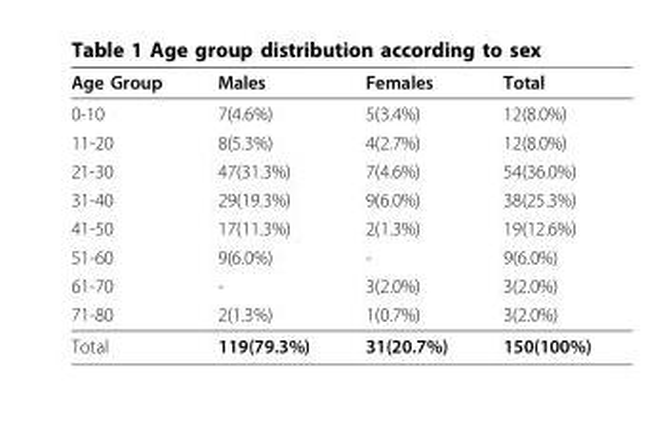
<table><thead><tr><td>Age Group</td><td>Males</td><td>Females</td><td>Total</td></tr></thead><tbody><tr><td>0-10</td><td>7(4.6%)</td><td>5(3.4%)</td><td>12(8.0%)</td></tr><tr><td>11-20</td><td>8(5.3%)</td><td>4(2.7%)</td><td>12(8.0%)</td></tr><tr><td>21-30</td><td>47(31.3%)</td><td>7(4.6%)</td><td>54(36.0%)</td></tr><tr><td>31-40</td><td>29(19.3%)</td><td>9(6.0%)</td><td>38(25.3%)</td></tr><tr><td>41-50</td><td>17(11.3%)</td><td>2(1.3%)</td><td>19(12.6%)</td></tr><tr><td>51-60</td><td>9(6.0%)</td><td>-</td><td>9(6.0%)</td></tr><tr><td>61-70</td><td>-</td><td>3(2.0%)</td><td>3(2.0%)</td></tr><tr><td>71-80</td><td>2(1.3%)</td><td>1(0.7%)</td><td>3(2.0%)</td></tr><tr><td>Total</td><td>119(79.3%)</td><td>31(20.7%)</td><td>150(100%)</td></tr></tbody></table>